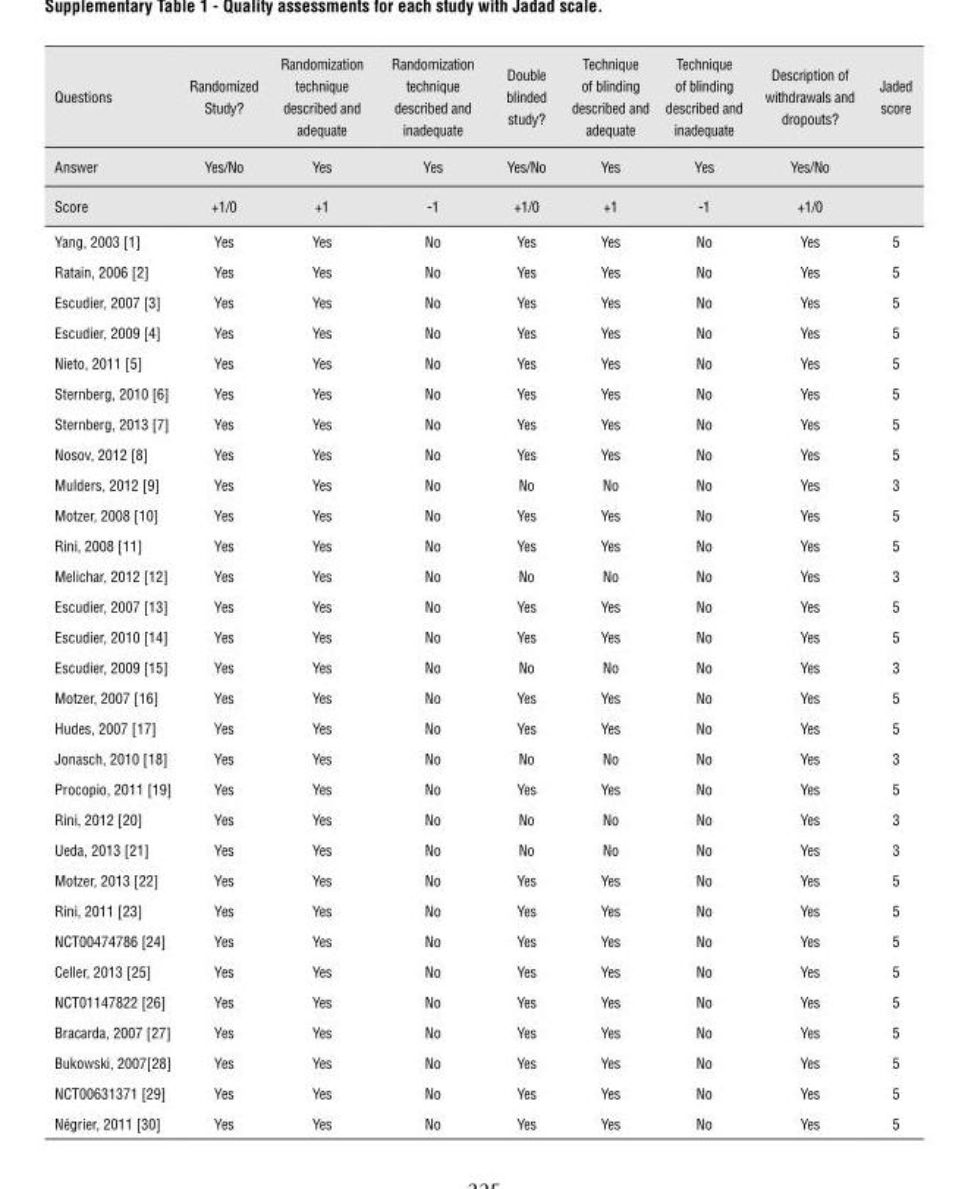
<table><thead><tr><td rowspan="3">Questions Answer Score</td><td rowspan="3">Randomized Study? Yes/No +1/0</td><td rowspan="3">Randomization technique described and adequate Yes +1</td><td rowspan="3">Randomization technique described and inadequate Yes -1</td><td rowspan="3">Double blinded study? Yes/No +1/0</td><td rowspan="3">Technique of blinding described and adequate Yes +1</td><td rowspan="3">Technique of blinding described and inadequate Yes -1</td><td rowspan="3">Description of withdrawals and dropouts? Yes/No +1/0</td><td rowspan="3">Jaded score</td></tr><tr></tr><tr></tr></thead><tbody><tr><td>Yang, 2003 [1]</td><td>Yes</td><td>Yes</td><td>No</td><td>Yes</td><td>Yes</td><td>No</td><td>Yes</td><td>5</td></tr><tr><td>Ratain, 2006 [2]</td><td>Yes</td><td>Yes</td><td>No</td><td>Yes</td><td>Yes</td><td>No</td><td>Yes</td><td>5</td></tr><tr><td>Escudier, 2007 [3]</td><td>Yes</td><td>Yes</td><td>No</td><td>Yes</td><td>Yes</td><td>No</td><td>Yes</td><td>5</td></tr><tr><td>Escudier, 2009 [4]</td><td>Yes</td><td>Yes</td><td>No</td><td>Yes</td><td>Yes</td><td>No</td><td>Yes</td><td>5</td></tr><tr><td>Nieto, 2011 [5]</td><td>Yes</td><td>Yes</td><td>No</td><td>Yes</td><td>Yes</td><td>No</td><td>Yes</td><td>5</td></tr><tr><td>Sternberg, 2010 [6]</td><td>Yes</td><td>Yes</td><td>No</td><td>Yes</td><td>Yes</td><td>No</td><td>Yes</td><td>5</td></tr><tr><td>Sternberg, 2013 [7]</td><td>Yes</td><td>Yes</td><td>No</td><td>Yes</td><td>Yes</td><td>No</td><td>Yes</td><td>5</td></tr><tr><td>Nosov, 2012 [8]</td><td>Yes</td><td>Yes</td><td>No</td><td>Yes</td><td>Yes</td><td>No</td><td>Yes</td><td>5</td></tr><tr><td>Mulders, 2012 [9]</td><td>Yes</td><td>Yes</td><td>No</td><td>No</td><td>No</td><td>No</td><td>Yes</td><td>3</td></tr><tr><td>Motzer, 2008 [10]</td><td>Yes</td><td>Yes</td><td>No</td><td>Yes</td><td>Yes</td><td>No</td><td>Yes</td><td>5</td></tr><tr><td>Rini, 2008 [11]</td><td>Yes</td><td>Yes</td><td>No</td><td>Yes</td><td>Yes</td><td>No</td><td>Yes</td><td>5</td></tr><tr><td>Melichar, 2012 [12]</td><td>Yes</td><td>Yes</td><td>No</td><td>No</td><td>No</td><td>No</td><td>Yes</td><td>3</td></tr><tr><td>Escudier, 2007 [13]</td><td>Yes</td><td>Yes</td><td>No</td><td>Yes</td><td>Yes</td><td>No</td><td>Yes</td><td>5</td></tr><tr><td>Escudier, 2010 [14]</td><td>Yes</td><td>Yes</td><td>No</td><td>Yes</td><td>Yes</td><td>No</td><td>Yes</td><td>5</td></tr><tr><td>Escudier, 2009 [15]</td><td>Yes</td><td>Yes</td><td>No</td><td>No</td><td>No</td><td>No</td><td>Yes</td><td>3</td></tr><tr><td>Motzer, 2007 [16]</td><td>Yes</td><td>Yes</td><td>No</td><td>Yes</td><td>Yes</td><td>No</td><td>Yes</td><td>5</td></tr><tr><td>Hudes, 2007 [17]</td><td>Yes</td><td>Yes</td><td>No</td><td>Yes</td><td>Yes</td><td>No</td><td>Yes</td><td>5</td></tr><tr><td>Jonasch, 2010 [18]</td><td>Yes</td><td>Yes</td><td>No</td><td>No</td><td>No</td><td>No</td><td>Yes</td><td>3</td></tr><tr><td>Procopio, 2011 [19]</td><td>Yes</td><td>Yes</td><td>No</td><td>Yes</td><td>Yes</td><td>No</td><td>Yes</td><td>5</td></tr><tr><td>Rini, 2012 [20]</td><td>Yes</td><td>Yes</td><td>No</td><td>No</td><td>No</td><td>No</td><td>Yes</td><td>3</td></tr><tr><td>Ueda, 2013 [21]</td><td>Yes</td><td>Yes</td><td>No</td><td>No</td><td>No</td><td>No</td><td>Yes</td><td>3</td></tr><tr><td>Motzer, 2013 [22]</td><td>Yes</td><td>Yes</td><td>No</td><td>Yes</td><td>Yes</td><td>No</td><td>Yes</td><td>5</td></tr><tr><td>Rini, 2011 [23]</td><td>Yes</td><td>Yes</td><td>No</td><td>Yes</td><td>Yes</td><td>No</td><td>Yes</td><td>5</td></tr><tr><td>NCT00474786 [24]</td><td>Yes</td><td>Yes</td><td>No</td><td>Yes</td><td>Yes</td><td>No</td><td>Yes</td><td>5</td></tr><tr><td>Celler, 2013 [25]</td><td>Yes</td><td>Yes</td><td>No</td><td>Yes</td><td>Yes</td><td>No</td><td>Yes</td><td>5</td></tr><tr><td>NCT01147822 [26]</td><td>Yes</td><td>Yes</td><td>No</td><td>Yes</td><td>Yes</td><td>No</td><td>Yes</td><td>5</td></tr><tr><td>Bracarda, 2007 [27]</td><td>Yes</td><td>Yes</td><td>No</td><td>Yes</td><td>Yes</td><td>No</td><td>Yes</td><td>5</td></tr><tr><td>Bukowski, 2007[28]</td><td>Yes</td><td>Yes</td><td>No</td><td>Yes</td><td>Yes</td><td>No</td><td>Yes</td><td>5</td></tr><tr><td>NCT00631371 [29]</td><td>Yes</td><td>Yes</td><td>No</td><td>Yes</td><td>Yes</td><td>No</td><td>Yes</td><td>5</td></tr><tr><td>Négrier, 2011 [30]</td><td>Yes</td><td>Yes</td><td>No</td><td>Yes</td><td>Yes</td><td>No</td><td>Yes</td><td>5</td></tr></tbody></table>